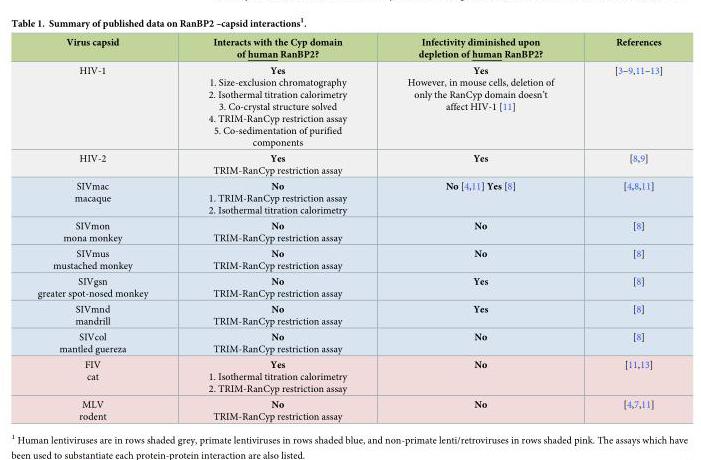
<table><thead><tr><td>Virus capsid</td><td>Interacts with the Cyp domain of human RanBP2?</td><td>Infectivity diminished upon depletion of human RanBP2?</td><td>References</td></tr></thead><tbody><tr><td>HIV-1</td><td>Yes 1. Size-exclusion chromatography 2. Isothermal titration calorimetry 3. Co-crystal structure solved 4. TRIM-RanCyp restriction assay 5. Co-sedimentation of purified components</td><td>Yes However, in mouse cells, deletion of only the RanCyp domain doesn’t affect HIV-1 [11]</td><td>[3–9,11–13]</td></tr><tr><td>HIV-2</td><td>Yes TRIM-RanCyp restriction assay</td><td>Yes</td><td>[8,9]</td></tr><tr><td>SIVmac macaque</td><td>No 1. TRIM-RanCyp restriction assay 2. Isothermal titration calorimetry</td><td>No [4,11] Yes [8]</td><td>[4,8,11]</td></tr><tr><td>SIVmon mona monkey</td><td>No TRIM-RanCyp restriction assay</td><td>No</td><td>[8]</td></tr><tr><td>SIVmus mustached monkey</td><td>No TRIM-RanCyp restriction assay</td><td>No</td><td>[8]</td></tr><tr><td>SIVgsn greater spot-nosed monkey</td><td>No TRIM-RanCyp restriction assay</td><td>Yes</td><td>[8]</td></tr><tr><td>SIVmnd mandrill</td><td>No TRIM-RanCyp restriction assay</td><td>Yes</td><td>[8]</td></tr><tr><td>SIVcol mantled guereza</td><td>No TRIM-RanCyp restriction assay</td><td>No</td><td>[8]</td></tr><tr><td>FIV cat</td><td>Yes 1. Isothermal titration calorimetry 2. TRIM-RanCyp restriction assay</td><td>No</td><td>[11,13]</td></tr><tr><td>MLV rodent</td><td>No TRIM-RanCyp restriction assay</td><td>No</td><td>[4,7,11]</td></tr></tbody></table>